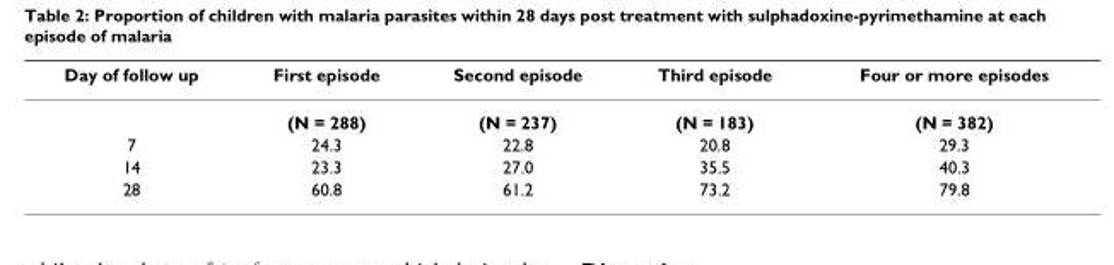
<table><thead><tr><td>Day of follow up</td><td>First episode</td><td>Second episode</td><td>Third episode</td><td>Four or more episodes</td></tr></thead><tbody><tr><td></td><td>(N = 288)</td><td>(N = 237)</td><td>(N = 183)</td><td>(N = 382)</td></tr><tr><td>7</td><td>24.3</td><td>22.8</td><td>20.8</td><td>29.3</td></tr><tr><td>14</td><td>23.3</td><td>27.0</td><td>35.5</td><td>40.3</td></tr><tr><td>28</td><td>60.8</td><td>61.2</td><td>73.2</td><td>79.8</td></tr></tbody></table>